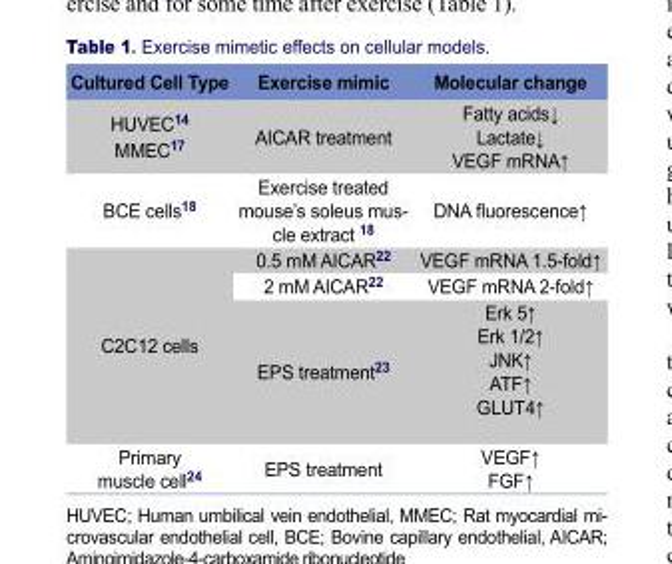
<table><thead><tr><td>Cultured Cell Type</td><td>Exercise mimic</td><td>Molecular change</td></tr></thead><tbody><tr><td>HUVEC<sup>14</sup> MMEC<sup>17</sup></td><td>AICAR treatment</td><td>Fatty acids↓ Lactate↓ VEGF mRNA↑</td></tr><tr><td>BCE cells<sup>18</sup></td><td>Exercise treated mouse’s soleus mus- cle extract 18</td><td>DNA fluorescence↑</td></tr><tr><td rowspan="3">C2C12 cells</td><td>0.5 mM AICAR<sup>22</sup></td><td>VEGF mRNA 1.5-fold↑</td></tr><tr><td>2 mM AICAR<sup>22</sup></td><td>VEGF mRNA 2-fold↑</td></tr><tr><td>EPS treatment<sup>23</sup></td><td>Erk 5↑ Erk 1/2↑ JNK↑ ATF↑ GLUT4↑</td></tr><tr><td>Primary muscle cell<sup>24</sup></td><td>EPS treatment</td><td>VEGF↑ FGF↑</td></tr></tbody></table>